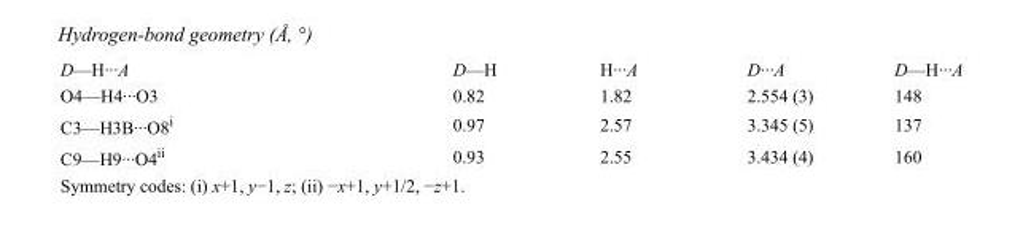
<table><tbody><tr><td>D—H···A</td><td>D—H</td><td>H···A</td><td>D···A</td><td>D—H···A</td></tr><tr><td>O4—H4···O3</td><td>0.82</td><td>1.82</td><td>2.554 (3)</td><td>148</td></tr><tr><td>C3—H3B···O8<sup>i</sup></td><td>0.97</td><td>2.57</td><td>3.345 (5)</td><td>137</td></tr><tr><td>C9—H9···O4<sup>ii</sup></td><td>0.93</td><td>2.55</td><td>3.434 (4)</td><td>160</td></tr></tbody></table>